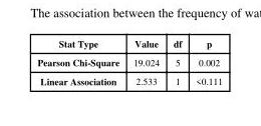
<table><thead><tr><td>Stat Type</td><td>Value</td><td>df</td><td>p</td></tr></thead><tbody><tr><td>Pearson Chi-Square</td><td>19.024</td><td>5</td><td>0.002</td></tr><tr><td>Linear Association</td><td>2.533</td><td>1</td><td>&lt;0.111</td></tr></tbody></table>